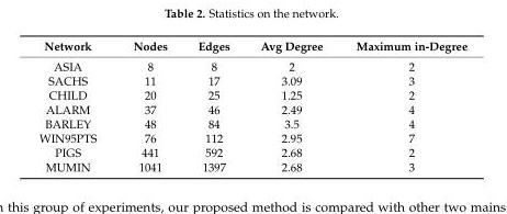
<table><thead><tr><td>Network</td><td>Nodes</td><td>Edges</td><td>Avg Degree</td><td>Maximum in-Degree</td></tr></thead><tbody><tr><td>ASIA</td><td>8</td><td>8</td><td>2</td><td>2</td></tr><tr><td>SACHS</td><td>11</td><td>17</td><td>3.09</td><td>3</td></tr><tr><td>CHILD</td><td>20</td><td>25</td><td>1.25</td><td>2</td></tr><tr><td>ALARM</td><td>37</td><td>46</td><td>2.49</td><td>4</td></tr><tr><td>BARLEY</td><td>48</td><td>84</td><td>3.5</td><td>4</td></tr><tr><td>WIN95PTS</td><td>76</td><td>112</td><td>2.95</td><td>7</td></tr><tr><td>PIGS</td><td>441</td><td>592</td><td>2.68</td><td>2</td></tr><tr><td>MUMIN</td><td>1041</td><td>1397</td><td>2.68</td><td>3</td></tr></tbody></table>